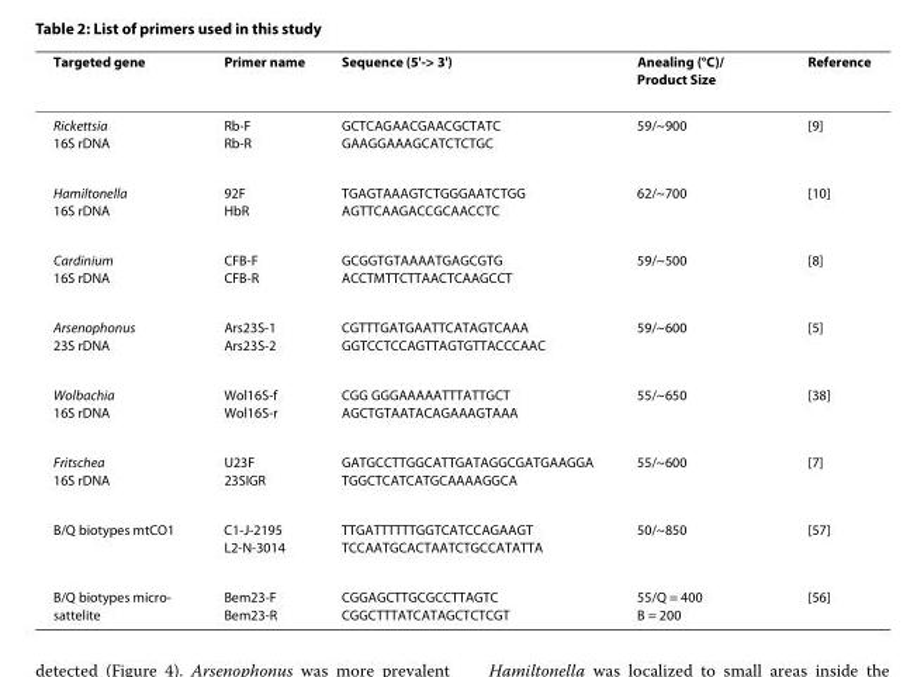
<table><thead><tr><td>Targeted gene</td><td>Primer name</td><td>Sequence (5&#x27;-&gt; 3&#x27;)</td><td>Anealing (°C)/ Product Size</td><td>Reference</td></tr></thead><tbody><tr><td>Rickettsia 16S rDNA</td><td>Rb-F Rb-R</td><td>GCTCAGAACGAACGCTATC GAAGGAAAGCATCTCTGC</td><td>59/~900</td><td>[9]</td></tr><tr><td>Hamiltonella 16S rDNA</td><td>92F HbR</td><td>TGAGTAAAGTCTGGGAATCTGG AGTTCAAGACCGCAACCTC</td><td>62/~700</td><td>[10]</td></tr><tr><td>Cardinium 16S rDNA</td><td>CFB-F CFB-R</td><td>GCGGTGTAAAATGAGCGTG ACCTMTTCTTAACTCAAGCCT</td><td>59/~500</td><td>[8]</td></tr><tr><td>Arsenophonus 23S rDNA</td><td>Ars23S-1 Ars23S-2</td><td>CGTTTGATGAATTCATAGTCAAA GGTCCTCCAGTTAGTGTTACCCAAC</td><td>59/~600</td><td>[5]</td></tr><tr><td>Wolbachia 16S rDNA</td><td>Wol16S-f Wol16S-r</td><td>CGG GGGAAAAATTTATTGCT AGCTGTAATACAGAAAGTAAA</td><td>55/~650</td><td>[38]</td></tr><tr><td>Fritschea 16S rDNA</td><td>U23F 23SIGR</td><td>GATGCCTTGGCATTGATAGGCGATGAAGGA TGGCTCATCATGCAAAAGGCA</td><td>55/~600</td><td>[7]</td></tr><tr><td>B/Q biotypes mtCO1</td><td>C1-J-2195 L2-N-3014</td><td>TTGATTTTTTGGTCATCCAGAAGT TCCAATGCACTAATCTGCCATATTA</td><td>50/~850</td><td>[57]</td></tr><tr><td>B/Q biotypes micro- sattelite</td><td>Bem23-F Bem23-R</td><td>CGGAGCTTGCGCCTTAGTC CGGCTTTATCATAGCTCTCGT</td><td>55/Q = 400 B = 200</td><td>[56]</td></tr></tbody></table>